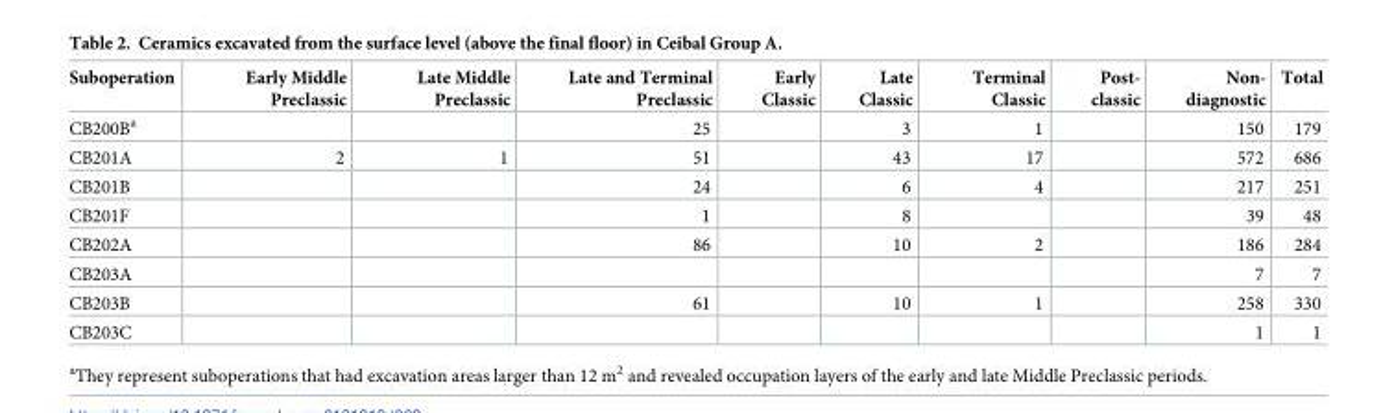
<table><thead><tr><td>Suboperation</td><td>Early Middle Preclassic</td><td>Late Middle Preclassic</td><td>Late and Terminal Preclassic</td><td>Early Classic</td><td>Late Classic</td><td>Terminal Classic</td><td>Post- classic</td><td>Non- diagnostic</td><td>Total</td></tr></thead><tbody><tr><td>CB200B<sup>a</sup></td><td></td><td></td><td>25</td><td></td><td>3</td><td>1</td><td></td><td>150</td><td>179</td></tr><tr><td>CB201A</td><td>2</td><td>1</td><td>51</td><td></td><td>43</td><td>17</td><td></td><td>572</td><td>686</td></tr><tr><td>CB201B</td><td></td><td></td><td>24</td><td></td><td>6</td><td>4</td><td></td><td>217</td><td>251</td></tr><tr><td>CB201F</td><td></td><td></td><td>1</td><td></td><td>8</td><td></td><td></td><td>39</td><td>48</td></tr><tr><td>CB202A</td><td></td><td></td><td>86</td><td></td><td>10</td><td>2</td><td></td><td>186</td><td>284</td></tr><tr><td>CB203A</td><td></td><td></td><td></td><td></td><td></td><td></td><td></td><td>7</td><td>7</td></tr><tr><td>CB203B</td><td></td><td></td><td>61</td><td></td><td>10</td><td>1</td><td></td><td>258</td><td>330</td></tr><tr><td>CB203C</td><td></td><td></td><td></td><td></td><td></td><td></td><td></td><td>1</td><td>1</td></tr></tbody></table>